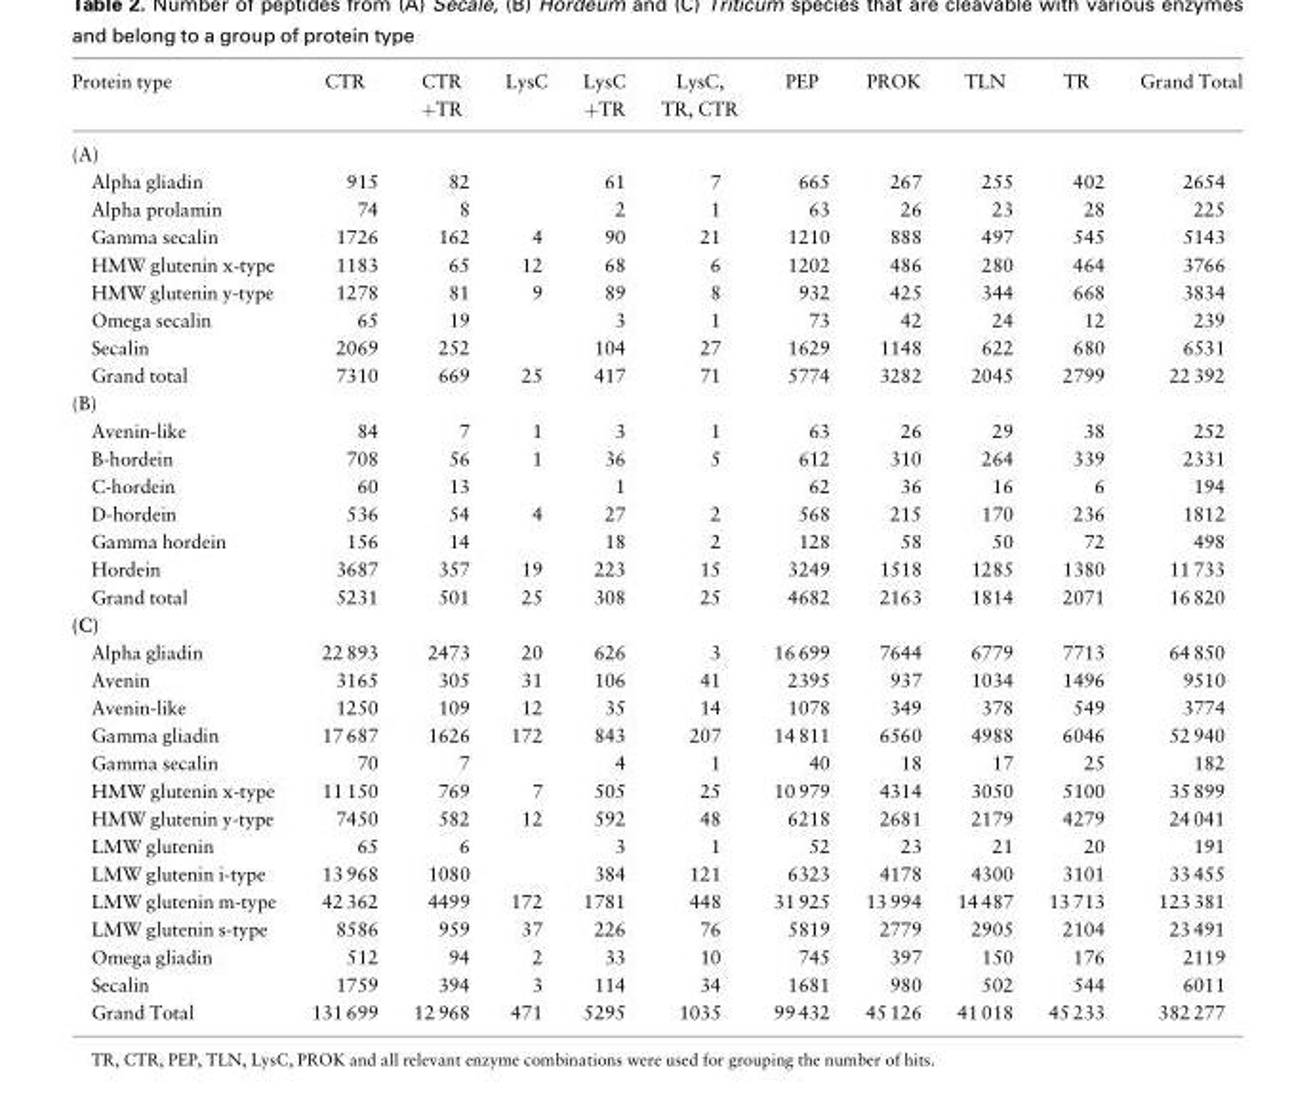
<table><thead><tr><td>Protein type</td><td>CTR</td><td>CTR +TR</td><td>LysC</td><td>LysC +TR</td><td>LysC, TR, CTR</td><td>PEP</td><td>PROK</td><td>TLN</td><td>TR</td><td>Grand Total</td></tr></thead><tbody><tr><td colspan="11">(A)</td></tr><tr><td>Alpha gliadin</td><td>915</td><td>82</td><td></td><td>61</td><td>7</td><td>665</td><td>267</td><td>255</td><td>402</td><td>2654</td></tr><tr><td>Alpha prolamin</td><td>74</td><td>8</td><td></td><td>2</td><td>1</td><td>63</td><td>26</td><td>23</td><td>28</td><td>225</td></tr><tr><td>Gamma secalin</td><td>1726</td><td>162</td><td>4</td><td>90</td><td>21</td><td>1210</td><td>888</td><td>497</td><td>545</td><td>5143</td></tr><tr><td>HMW glutenin x-type</td><td>1183</td><td>65</td><td>12</td><td>68</td><td>6</td><td>1202</td><td>486</td><td>280</td><td>464</td><td>3766</td></tr><tr><td>HMW glutenin y-type</td><td>1278</td><td>81</td><td>9</td><td>89</td><td>8</td><td>932</td><td>425</td><td>344</td><td>668</td><td>3834</td></tr><tr><td>Omega secalin</td><td>65</td><td>19</td><td></td><td>3</td><td>1</td><td>73</td><td>42</td><td>24</td><td>12</td><td>239</td></tr><tr><td>Secalin</td><td>2069</td><td>252</td><td></td><td>104</td><td>27</td><td>1629</td><td>1148</td><td>622</td><td>680</td><td>6531</td></tr><tr><td>Grand total</td><td>7310</td><td>669</td><td>25</td><td>417</td><td>71</td><td>5774</td><td>3282</td><td>2045</td><td>2799</td><td>22 392</td></tr><tr><td colspan="11">(B)</td></tr><tr><td>Avenin-like</td><td>84</td><td>7</td><td>1</td><td>3</td><td>1</td><td>63</td><td>26</td><td>29</td><td>38</td><td>252</td></tr><tr><td>B-hordein</td><td>708</td><td>56</td><td>1</td><td>36</td><td>5</td><td>612</td><td>310</td><td>264</td><td>339</td><td>2331</td></tr><tr><td>C-hordein</td><td>60</td><td>13</td><td></td><td>1</td><td></td><td>62</td><td>36</td><td>16</td><td>6</td><td>194</td></tr><tr><td>D-hordein</td><td>536</td><td>54</td><td>4</td><td>27</td><td>2</td><td>568</td><td>215</td><td>170</td><td>236</td><td>1812</td></tr><tr><td>Gamma hordein</td><td>156</td><td>14</td><td></td><td>18</td><td>2</td><td>128</td><td>58</td><td>50</td><td>72</td><td>498</td></tr><tr><td>Hordein</td><td>3687</td><td>357</td><td>19</td><td>223</td><td>15</td><td>3249</td><td>1518</td><td>1285</td><td>1380</td><td>11 733</td></tr><tr><td>Grand total</td><td>5231</td><td>501</td><td>25</td><td>308</td><td>25</td><td>4682</td><td>2163</td><td>1814</td><td>2071</td><td>16 820</td></tr><tr><td colspan="11">(C)</td></tr><tr><td>Alpha gliadin</td><td>22 893</td><td>2473</td><td>20</td><td>626</td><td>3</td><td>16 699</td><td>7644</td><td>6779</td><td>7713</td><td>64 850</td></tr><tr><td>Avenin</td><td>3165</td><td>305</td><td>31</td><td>106</td><td>41</td><td>2395</td><td>937</td><td>1034</td><td>1496</td><td>9510</td></tr><tr><td>Avenin-like</td><td>1250</td><td>109</td><td>12</td><td>35</td><td>14</td><td>1078</td><td>349</td><td>378</td><td>549</td><td>3774</td></tr><tr><td>Gamma gliadin</td><td>17 687</td><td>1626</td><td>172</td><td>843</td><td>207</td><td>14 811</td><td>6560</td><td>4988</td><td>6046</td><td>52 940</td></tr><tr><td>Gamma secalin</td><td>70</td><td>7</td><td></td><td>4</td><td>1</td><td>40</td><td>18</td><td>17</td><td>25</td><td>182</td></tr><tr><td>HMW glutenin x-type</td><td>11 150</td><td>769</td><td>7</td><td>505</td><td>25</td><td>10 979</td><td>4314</td><td>3050</td><td>5100</td><td>35 899</td></tr><tr><td>HMW glutenin y-type</td><td>7450</td><td>582</td><td>12</td><td>592</td><td>48</td><td>6218</td><td>2681</td><td>2179</td><td>4279</td><td>24 041</td></tr><tr><td>LMW glutenin</td><td>65</td><td>6</td><td></td><td>3</td><td>1</td><td>52</td><td>23</td><td>21</td><td>20</td><td>191</td></tr><tr><td>LMW glutenin i-type</td><td>13 968</td><td>1080</td><td></td><td>384</td><td>121</td><td>6323</td><td>4178</td><td>4300</td><td>3101</td><td>33 455</td></tr><tr><td>LMW glutenin m-type</td><td>42 362</td><td>4499</td><td>172</td><td>1781</td><td>448</td><td>31 925</td><td>13 994</td><td>14 487</td><td>13 713</td><td>123 381</td></tr><tr><td>LMW glutenin s-type</td><td>8586</td><td>959</td><td>37</td><td>226</td><td>76</td><td>5819</td><td>2779</td><td>2905</td><td>2104</td><td>23 491</td></tr><tr><td>Omega gliadin</td><td>512</td><td>94</td><td>2</td><td>33</td><td>10</td><td>745</td><td>397</td><td>150</td><td>176</td><td>2119</td></tr><tr><td>Secalin</td><td>1759</td><td>394</td><td>3</td><td>114</td><td>34</td><td>1681</td><td>980</td><td>502</td><td>544</td><td>6011</td></tr><tr><td>Grand Total</td><td>131 699</td><td>12 968</td><td>471</td><td>5295</td><td>1035</td><td>99 432</td><td>45 126</td><td>41 018</td><td>45 233</td><td>382 277</td></tr></tbody></table>